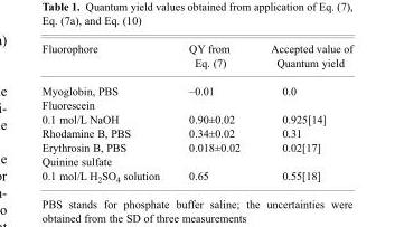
<table><thead><tr><td>Fluorophore</td><td>QY from Eq. (7)</td><td>Accepted value of Quantum yield</td></tr></thead><tbody><tr><td>Myoglobin, PBS</td><td>–0.01</td><td>0.0</td></tr><tr><td colspan="3">Fluorescein</td></tr><tr><td>0.1 mol/L NaOH</td><td>0.90±0.02</td><td>0.925[14]</td></tr><tr><td>Rhodamine B, PBS</td><td>0.34±0.02</td><td>0.31</td></tr><tr><td>Erythrosin B, PBS</td><td>0.018±0.02</td><td>0.02[17]</td></tr><tr><td colspan="3">Quinine sulfate</td></tr><tr><td>0.1 mol/L H<sub>2</sub>SO<sub>4</sub> solution</td><td>0.65</td><td>0.55[18]</td></tr></tbody></table>